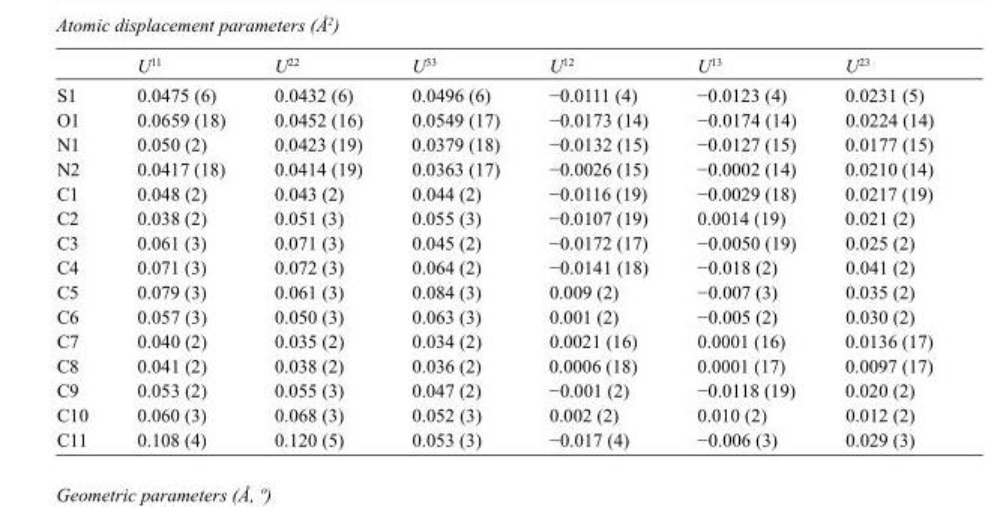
<table><thead><tr><td></td><td>U<sup>11</sup></td><td>U<sup>22</sup></td><td>U<sup>33</sup></td><td>U<sup>12</sup></td><td>U<sup>13</sup></td><td>U<sup>23</sup></td></tr></thead><tbody><tr><td>S1</td><td>0.0475 (6)</td><td>0.0432 (6)</td><td>0.0496 (6)</td><td>−0.0111 (4)</td><td>−0.0123 (4)</td><td>0.0231 (5)</td></tr><tr><td>O1</td><td>0.0659 (18)</td><td>0.0452 (16)</td><td>0.0549 (17)</td><td>−0.0173 (14)</td><td>−0.0174 (14)</td><td>0.0224 (14)</td></tr><tr><td>N1</td><td>0.050 (2)</td><td>0.0423 (19)</td><td>0.0379 (18)</td><td>−0.0132 (15)</td><td>−0.0127 (15)</td><td>0.0177 (15)</td></tr><tr><td>N2</td><td>0.0417 (18)</td><td>0.0414 (19)</td><td>0.0363 (17)</td><td>−0.0026 (15)</td><td>−0.0002 (14)</td><td>0.0210 (14)</td></tr><tr><td>C1</td><td>0.048 (2)</td><td>0.043 (2)</td><td>0.044 (2)</td><td>−0.0116 (19)</td><td>−0.0029 (18)</td><td>0.0217 (19)</td></tr><tr><td>C2</td><td>0.038 (2)</td><td>0.051 (3)</td><td>0.055 (3)</td><td>−0.0107 (19)</td><td>0.0014 (19)</td><td>0.021 (2)</td></tr><tr><td>C3</td><td>0.061 (3)</td><td>0.071 (3)</td><td>0.045 (2)</td><td>−0.0172 (17)</td><td>−0.0050 (19)</td><td>0.025 (2)</td></tr><tr><td>C4</td><td>0.071 (3)</td><td>0.072 (3)</td><td>0.064 (2)</td><td>−0.0141 (18)</td><td>−0.018 (2)</td><td>0.041 (2)</td></tr><tr><td>C5</td><td>0.079 (3)</td><td>0.061 (3)</td><td>0.084 (3)</td><td>0.009 (2)</td><td>−0.007 (3)</td><td>0.035 (2)</td></tr><tr><td>C6</td><td>0.057 (3)</td><td>0.050 (3)</td><td>0.063 (3)</td><td>0.001 (2)</td><td>−0.005 (2)</td><td>0.030 (2)</td></tr><tr><td>C7</td><td>0.040 (2)</td><td>0.035 (2)</td><td>0.034 (2)</td><td>0.0021 (16)</td><td>0.0001 (16)</td><td>0.0136 (17)</td></tr><tr><td>C8</td><td>0.041 (2)</td><td>0.038 (2)</td><td>0.036 (2)</td><td>0.0006 (18)</td><td>0.0001 (17)</td><td>0.0097 (17)</td></tr><tr><td>C9</td><td>0.053 (2)</td><td>0.055 (3)</td><td>0.047 (2)</td><td>−0.001 (2)</td><td>−0.0118 (19)</td><td>0.020 (2)</td></tr><tr><td>C10</td><td>0.060 (3)</td><td>0.068 (3)</td><td>0.052 (3)</td><td>0.002 (2)</td><td>0.010 (2)</td><td>0.012 (2)</td></tr><tr><td>C11</td><td>0.108 (4)</td><td>0.120 (5)</td><td>0.053 (3)</td><td>−0.017 (4)</td><td>−0.006 (3)</td><td>0.029 (3)</td></tr></tbody></table>